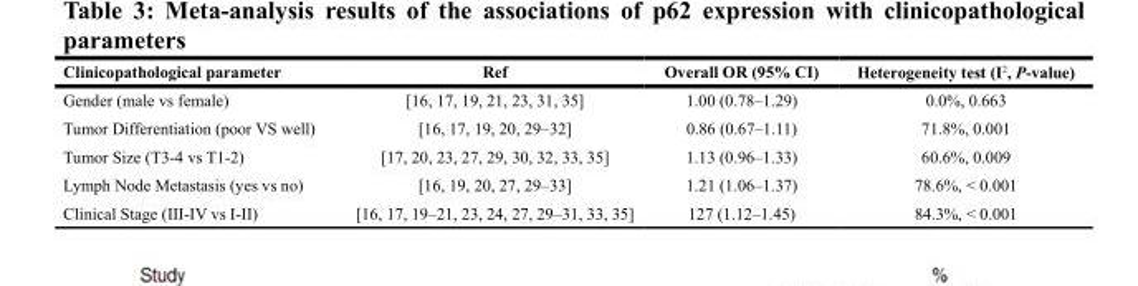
<table><thead><tr><td>Clinicopathological parameter</td><td>Ref</td><td>Overall OR (95% CI)</td><td>Heterogeneity test (I<sup>2</sup>, P-value)</td></tr></thead><tbody><tr><td>Gender (male vs female)</td><td>[16, 17, 19, 21, 23, 31, 35]</td><td>1.00 (0.78–1.29)</td><td>0.0%, 0.663</td></tr><tr><td>Tumor Differentiation (poor VS well)</td><td>[16, 17, 19, 20, 29–32]</td><td>0.86 (0.67–1.11)</td><td>71.8%, 0.001</td></tr><tr><td>Tumor Size (T3-4 vs T1-2)</td><td>[17, 20, 23, 27, 29, 30, 32, 33, 35]</td><td>1.13 (0.96–1.33)</td><td>60.6%, 0.009</td></tr><tr><td>Lymph Node Metastasis (yes vs no)</td><td>[16, 19, 20, 27, 29–33]</td><td>1.21 (1.06–1.37)</td><td>78.6%, &lt; 0.001</td></tr><tr><td>Clinical Stage (III-IV vs I-II)</td><td>[16, 17, 19–21, 23, 24, 27, 29–31, 33, 35]</td><td>127 (1.12–1.45)</td><td>84.3%, &lt; 0.001</td></tr></tbody></table>